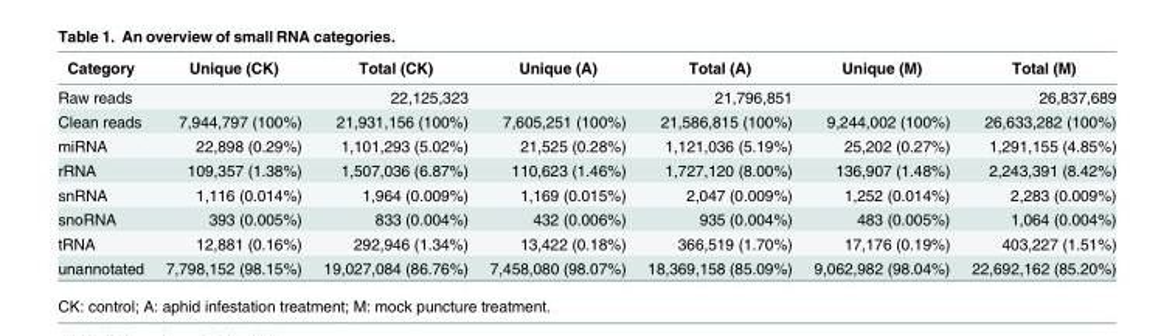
<table><thead><tr><td>Category</td><td>Unique (CK)</td><td>Total (CK)</td><td>Unique (A)</td><td>Total (A)</td><td>Unique (M)</td><td>Total (M)</td></tr></thead><tbody><tr><td>Raw reads</td><td></td><td>22,125,323</td><td></td><td>21,796,851</td><td></td><td>26,837,689</td></tr><tr><td>Clean reads</td><td>7,944,797 (100%)</td><td>21,931,156 (100%)</td><td>7,605,251 (100%)</td><td>21,586,815 (100%)</td><td>9,244,002 (100%)</td><td>26,633,282 (100%)</td></tr><tr><td>miRNA</td><td>22,898 (0.29%)</td><td>1,101,293 (5.02%)</td><td>21,525 (0.28%)</td><td>1,121,036 (5.19%)</td><td>25,202 (0.27%)</td><td>1,291,155 (4.85%)</td></tr><tr><td>rRNA</td><td>109,357 (1.38%)</td><td>1,507,036 (6.87%)</td><td>110,623 (1.46%)</td><td>1,727,120 (8.00%)</td><td>136,907 (1.48%)</td><td>2,243,391 (8.42%)</td></tr><tr><td>snRNA</td><td>1,116 (0.014%)</td><td>1,964 (0.009%)</td><td>1,169 (0.015%)</td><td>2,047 (0.009%)</td><td>1,252 (0.014%)</td><td>2,283 (0.009%)</td></tr><tr><td>snoRNA</td><td>393 (0.005%)</td><td>833 (0.004%)</td><td>432 (0.006%)</td><td>935 (0.004%)</td><td>483 (0.005%)</td><td>1,064 (0.004%)</td></tr><tr><td>tRNA</td><td>12,881 (0.16%)</td><td>292,946 (1.34%)</td><td>13,422 (0.18%)</td><td>366,519 (1.70%)</td><td>17,176 (0.19%)</td><td>403,227 (1.51%)</td></tr><tr><td>unannotated</td><td>7,798,152 (98.15%)</td><td>19,027,084 (86.76%)</td><td>7,458,080 (98.07%)</td><td>18,369,158 (85.09%)</td><td>9,062,982 (98.04%)</td><td>22,692,162 (85.20%)</td></tr></tbody></table>